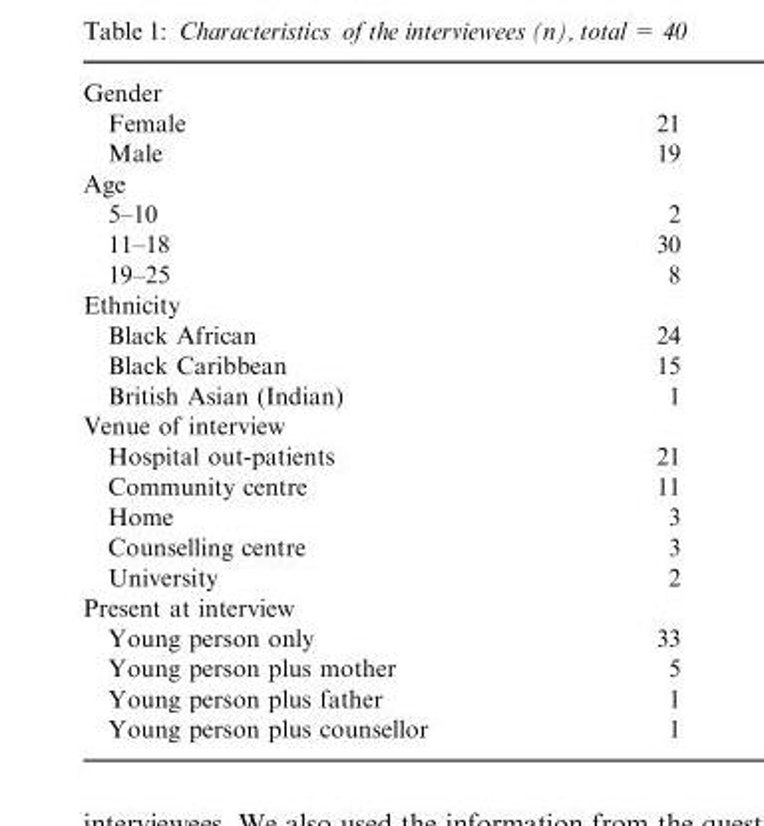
<table><tbody><tr><td colspan="2">Gender</td></tr><tr><td>Female</td><td>21</td></tr><tr><td>Male</td><td>19</td></tr><tr><td colspan="2">Age</td></tr><tr><td>5–10</td><td>2</td></tr><tr><td>11–18</td><td>30</td></tr><tr><td>19–25</td><td>8</td></tr><tr><td colspan="2">Ethnicity</td></tr><tr><td>Black African</td><td>24</td></tr><tr><td>Black Caribbean</td><td>15</td></tr><tr><td>British Asian (Indian)</td><td>1</td></tr><tr><td colspan="2">Venue of interview</td></tr><tr><td>Hospital out-patients</td><td>21</td></tr><tr><td>Community centre</td><td>11</td></tr><tr><td>Home</td><td>3</td></tr><tr><td>Counselling centre</td><td>3</td></tr><tr><td>University</td><td>2</td></tr><tr><td colspan="2">Present at interview</td></tr><tr><td>Young person only</td><td>33</td></tr><tr><td>Young person plus mother</td><td>5</td></tr><tr><td>Young person plus father</td><td>1</td></tr><tr><td>Young person plus counsellor</td><td>1</td></tr></tbody></table>